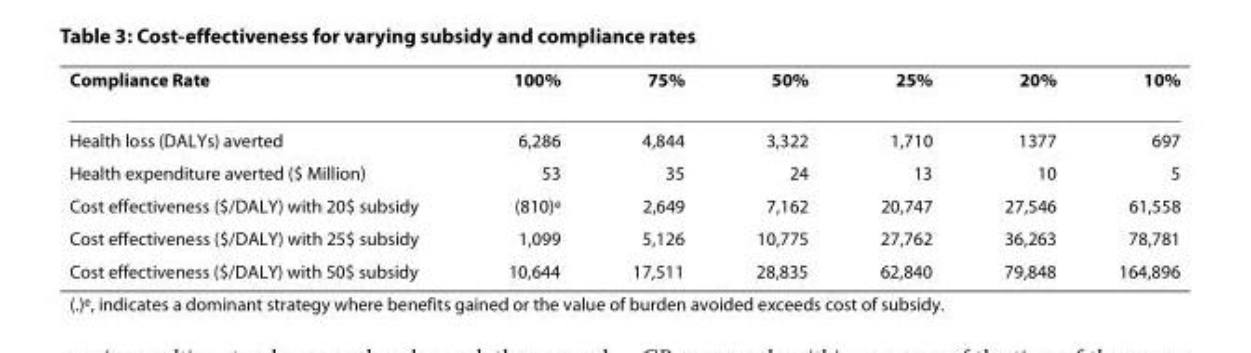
<table><thead><tr><td>Compliance Rate</td><td>100%</td><td>75%</td><td>50%</td><td>25%</td><td>20%</td><td>10%</td></tr></thead><tbody><tr><td>Health loss (DALYs) averted</td><td>6,286</td><td>4,844</td><td>3,322</td><td>1,710</td><td>1377</td><td>697</td></tr><tr><td>Health expenditure averted ($ Million)</td><td>53</td><td>35</td><td>24</td><td>13</td><td>10</td><td>5</td></tr><tr><td>Cost effectiveness ($/DALY) with 20$ subsidy</td><td>(810)<sup>e</sup></td><td>2,649</td><td>7,162</td><td>20,747</td><td>27,546</td><td>61,558</td></tr><tr><td>Cost effectiveness ($/DALY) with 25$ subsidy</td><td>1,099</td><td>5,126</td><td>10,775</td><td>27,762</td><td>36,263</td><td>78,781</td></tr><tr><td>Cost effectiveness ($/DALY) with 50$ subsidy</td><td>10,644</td><td>17,511</td><td>28,835</td><td>62,840</td><td>79,848</td><td>164,896</td></tr></tbody></table>